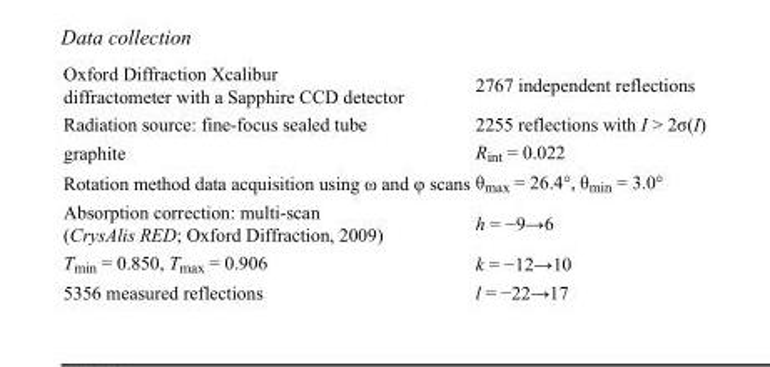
<table><tbody><tr><td>Oxford Diffraction Xcalibur diffractometer with a Sapphire CCD detector</td><td>2767 independent reflections</td></tr><tr><td>Radiation source: fine-focus sealed tube</td><td>2255 reflections with I &gt; 2σ(I)</td></tr><tr><td>graphite</td><td>R<sub>int</sub> = 0.022</td></tr><tr><td>Rotation method data acquisition using ω and φ scans</td><td>θ<sub>max</sub> = 26.4°, θ<sub>min</sub> = 3.0°</td></tr><tr><td>Absorption correction: multi-scan (CrysAlis RED; Oxford Diffraction, 2009)</td><td>h = −9→6</td></tr><tr><td>T<sub>min</sub> = 0.850, T<sub>max</sub> = 0.906</td><td>k = −12→10</td></tr><tr><td>5356 measured reflections</td><td>l = −22→17</td></tr></tbody></table>